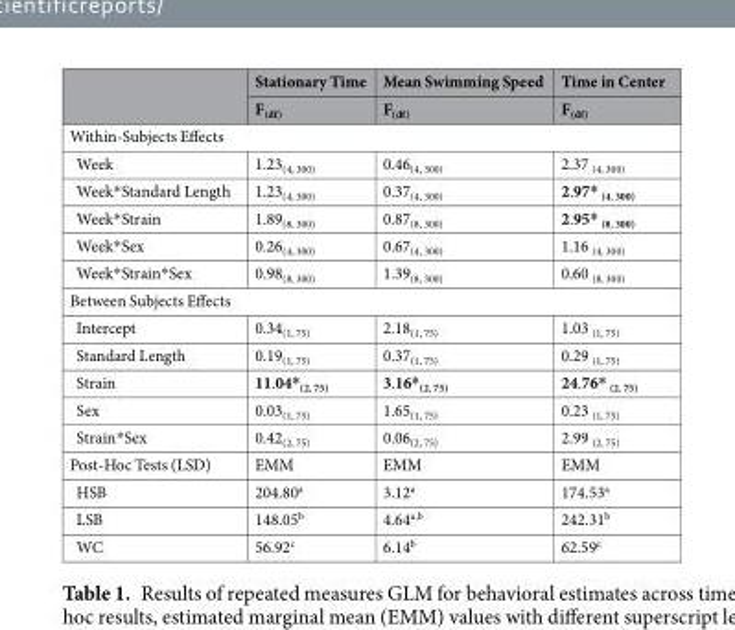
<table><thead><tr><td rowspan="2"></td><td rowspan="2">Stationary Time F<sub>(df)</sub></td><td rowspan="2">Mean Swimming Speed F<sub>(df)</sub></td><td rowspan="2">Time in Center F<sub>(df)</sub></td></tr><tr></tr></thead><tbody><tr><td colspan="4">Within-Subjects Effects</td></tr><tr><td>Week</td><td>1.23<sub>(4, 300)</sub></td><td>0.46<sub>(4, 300)</sub></td><td>2.37 <sub>(4, 300)</sub></td></tr><tr><td>Week*Standard Length</td><td>1.23<sub>(4, 300)</sub></td><td>0.37<sub>(4, 300)</sub></td><td>2.97* <sub>(4, 300)</sub></td></tr><tr><td>Week*Strain</td><td>1.89<sub>(8, 300)</sub></td><td>0.87<sub>(8, 300)</sub></td><td>2.95* <sub>(8, 300)</sub></td></tr><tr><td>Week*Sex</td><td>0.26<sub>(4, 300)</sub></td><td>0.67<sub>(4, 300)</sub></td><td>1.16 <sub>(4, 300)</sub></td></tr><tr><td>Week*Strain*Sex</td><td>0.98<sub>(8, 300)</sub></td><td>1.39<sub>(8, 300)</sub></td><td>0.60 <sub>(8, 300)</sub></td></tr><tr><td colspan="4">Between Subjects Effects</td></tr><tr><td>Intercept</td><td>0.34<sub>(1, 75)</sub></td><td>2.18<sub>(1, 75)</sub></td><td>1.03 <sub>(1, 75)</sub></td></tr><tr><td>Standard Length</td><td>0.19<sub>(1, 75)</sub></td><td>0.37<sub>(1, 75)</sub></td><td>0.29 <sub>(1, 75)</sub></td></tr><tr><td>Strain</td><td>11.04*<sub>(2, 75)</sub></td><td>3.16*<sub>(2, 75)</sub></td><td>24.76* <sub>(2, 75)</sub></td></tr><tr><td>Sex</td><td>0.03<sub>(1, 75)</sub></td><td>1.65<sub>(1, 75)</sub></td><td>0.23 <sub>(1, 75)</sub></td></tr><tr><td>Strain*Sex</td><td>0.42<sub>(2, 75)</sub></td><td>0.06<sub>(2, 75)</sub></td><td>2.99 <sub>(2, 75)</sub></td></tr><tr><td>Post-Hoc Tests (LSD)</td><td>EMM</td><td>EMM</td><td>EMM</td></tr><tr><td>HSB</td><td>204.80<sup>a</sup></td><td>3.12<sup>a</sup></td><td>174.53<sup>a</sup></td></tr><tr><td>LSB</td><td>148.05<sup>b</sup></td><td>4.64<sup>a,b</sup></td><td>242.31<sup>b</sup></td></tr><tr><td>WC</td><td>56.92<sup>c</sup></td><td>6.14<sup>b</sup></td><td>62.59<sup>c</sup></td></tr></tbody></table>